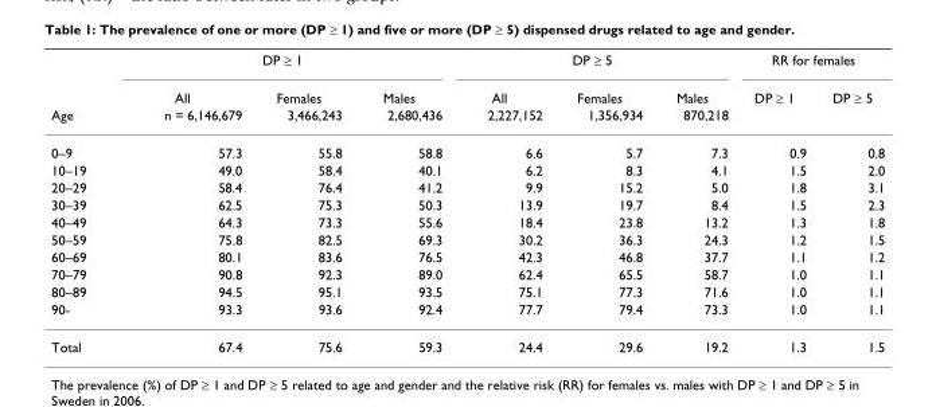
<table><thead><tr><td rowspan="3">Age</td><td colspan="3">DP ≥ 1</td><td colspan="3">DP ≥ 5</td><td colspan="2">RR for females</td></tr><tr><td rowspan="2">All n = 6,146,679</td><td rowspan="2">Females 3,466,243</td><td rowspan="2">Males 2,680,436</td><td rowspan="2">All 2,227,152</td><td rowspan="2">Females 1,356,934</td><td rowspan="2">Males 870,218</td><td rowspan="2">DP ≥ 1</td><td rowspan="2">DP ≥ 5</td></tr><tr></tr></thead><tbody><tr><td>0–9</td><td>57.3</td><td>55.8</td><td>58.8</td><td>6.6</td><td>5.7</td><td>7.3</td><td>0.9</td><td>0.8</td></tr><tr><td>10–19</td><td>49.0</td><td>58.4</td><td>40.1</td><td>6.2</td><td>8.3</td><td>4.1</td><td>1.5</td><td>2.0</td></tr><tr><td>20–29</td><td>58.4</td><td>76.4</td><td>41.2</td><td>9.9</td><td>15.2</td><td>5.0</td><td>1.8</td><td>3.1</td></tr><tr><td>30–39</td><td>62.5</td><td>75.3</td><td>50.3</td><td>13.9</td><td>19.7</td><td>8.4</td><td>1.5</td><td>2.3</td></tr><tr><td>40–49</td><td>64.3</td><td>73.3</td><td>55.6</td><td>18.4</td><td>23.8</td><td>13.2</td><td>1.3</td><td>1.8</td></tr><tr><td>50–59</td><td>75.8</td><td>82.5</td><td>69.3</td><td>30.2</td><td>36.3</td><td>24.3</td><td>1.2</td><td>1.5</td></tr><tr><td>60–69</td><td>80.1</td><td>83.6</td><td>76.5</td><td>42.3</td><td>46.8</td><td>37.7</td><td>1.1</td><td>1.2</td></tr><tr><td>70–79</td><td>90.8</td><td>92.3</td><td>89.0</td><td>62.4</td><td>65.5</td><td>58.7</td><td>1.0</td><td>1.1</td></tr><tr><td>80–89</td><td>94.5</td><td>95.1</td><td>93.5</td><td>75.1</td><td>77.3</td><td>71.6</td><td>1.0</td><td>1.1</td></tr><tr><td>90-</td><td>93.3</td><td>93.6</td><td>92.4</td><td>77.7</td><td>79.4</td><td>73.3</td><td>1.0</td><td>1.1</td></tr><tr><td>Total</td><td>67.4</td><td>75.6</td><td>59.3</td><td>24.4</td><td>29.6</td><td>19.2</td><td>1.3</td><td>1.5</td></tr></tbody></table>